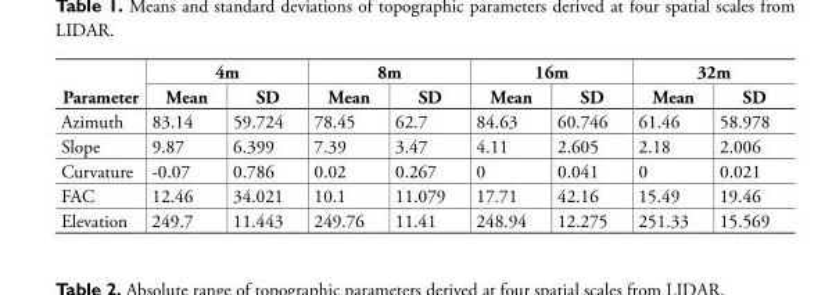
<table><thead><tr><td rowspan="2">Parameter</td><td colspan="2">4m</td><td colspan="2">8m</td><td colspan="2">16m</td><td colspan="2">32m</td></tr><tr><td>Mean</td><td>SD</td><td>Mean</td><td>SD</td><td>Mean</td><td>SD</td><td>Mean</td><td>SD</td></tr></thead><tbody><tr><td>Azimuth</td><td>83.14</td><td>59.724</td><td>78.45</td><td>62.7</td><td>84.63</td><td>60.746</td><td>61.46</td><td>58.978</td></tr><tr><td>Slope</td><td>9.87</td><td>6.399</td><td>7.39</td><td>3.47</td><td>4.11</td><td>2.605</td><td>2.18</td><td>2.006</td></tr><tr><td>Curvature</td><td>-0.07</td><td>0.786</td><td>0.02</td><td>0.267</td><td>0</td><td>0.041</td><td>0</td><td>0.021</td></tr><tr><td>FAC</td><td>12.46</td><td>34.021</td><td>10.1</td><td>11.079</td><td>17.71</td><td>42.16</td><td>15.49</td><td>19.46</td></tr><tr><td>Elevation</td><td>249.7</td><td>11.443</td><td>249.76</td><td>11.41</td><td>248.94</td><td>12.275</td><td>251.33</td><td>15.569</td></tr></tbody></table>